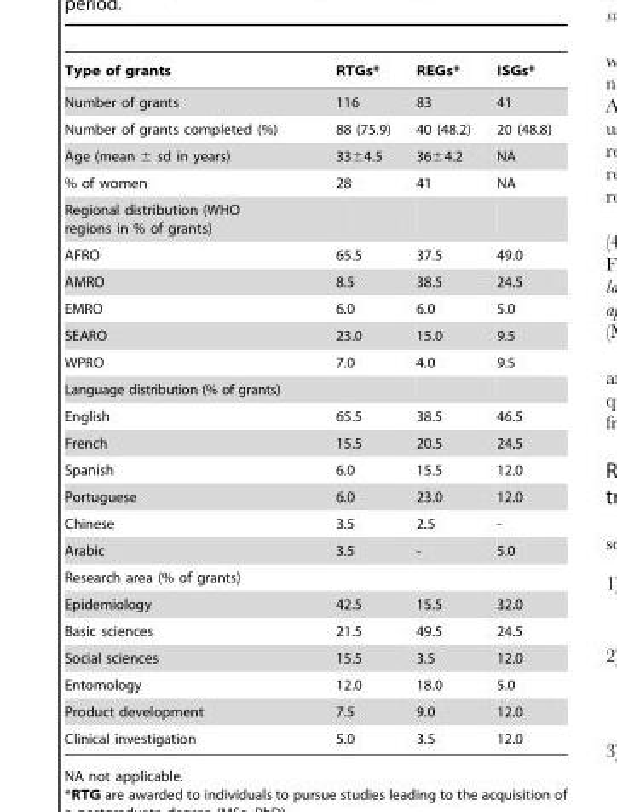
<table><thead><tr><td>Type of grants</td><td>RTGs*</td><td>REGs*</td><td>ISGs*</td></tr></thead><tbody><tr><td>Number of grants</td><td>116</td><td>83</td><td>41</td></tr><tr><td>Number of grants completed (%)</td><td>88 (75.9)</td><td>40 (48.2)</td><td>20 (48.8)</td></tr><tr><td>Age (mean ± sd in years)</td><td>33±4.5</td><td>36±4.2</td><td>NA</td></tr><tr><td>% of women</td><td>28</td><td>41</td><td>NA</td></tr><tr><td colspan="4">Regional distribution (WHO regions in % of grants)</td></tr><tr><td>AFRO</td><td>65.5</td><td>37.5</td><td>49.0</td></tr><tr><td>AMRO</td><td>8.5</td><td>38.5</td><td>24.5</td></tr><tr><td>EMRO</td><td>6.0</td><td>6.0</td><td>5.0</td></tr><tr><td>SEARO</td><td>23.0</td><td>15.0</td><td>9.5</td></tr><tr><td>WPRO</td><td>7.0</td><td>4.0</td><td>9.5</td></tr><tr><td colspan="4">Language distribution (% of grants)</td></tr><tr><td>English</td><td>65.5</td><td>38.5</td><td>46.5</td></tr><tr><td>French</td><td>15.5</td><td>20.5</td><td>24.5</td></tr><tr><td>Spanish</td><td>6.0</td><td>15.5</td><td>12.0</td></tr><tr><td>Portuguese</td><td>6.0</td><td>23.0</td><td>12.0</td></tr><tr><td>Chinese</td><td>3.5</td><td>2.5</td><td>-</td></tr><tr><td>Arabic</td><td>3.5</td><td>-</td><td>5.0</td></tr><tr><td colspan="4">Research area (% of grants)</td></tr><tr><td>Epidemiology</td><td>42.5</td><td>15.5</td><td>32.0</td></tr><tr><td>Basic sciences</td><td>21.5</td><td>49.5</td><td>24.5</td></tr><tr><td>Social sciences</td><td>15.5</td><td>3.5</td><td>12.0</td></tr><tr><td>Entomology</td><td>12.0</td><td>18.0</td><td>5.0</td></tr><tr><td>Product development</td><td>7.5</td><td>9.0</td><td>12.0</td></tr><tr><td>Clinical investigation</td><td>5.0</td><td>3.5</td><td>12.0</td></tr></tbody></table>